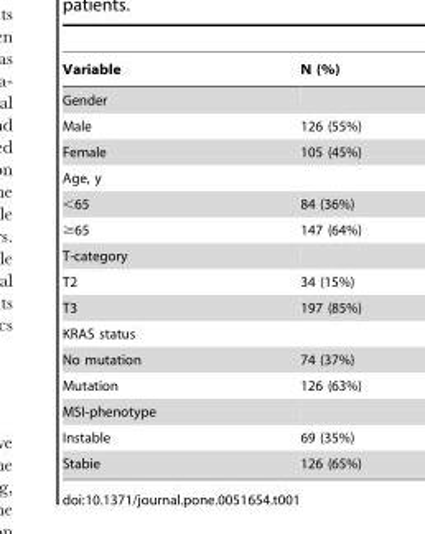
<table><thead><tr><td>Variable</td><td>N (%)</td></tr></thead><tbody><tr><td colspan="2">Gender</td></tr><tr><td>Male</td><td>126 (55%)</td></tr><tr><td>Female</td><td>105 (45%)</td></tr><tr><td colspan="2">Age, y</td></tr><tr><td>&lt;65</td><td>84 (36%)</td></tr><tr><td>≥65</td><td>147 (64%)</td></tr><tr><td colspan="2">T-category</td></tr><tr><td>T2</td><td>34 (15%)</td></tr><tr><td>T3</td><td>197 (85%)</td></tr><tr><td colspan="2">KRAS status</td></tr><tr><td>No mutation</td><td>74 (37%)</td></tr><tr><td>Mutation</td><td>126 (63%)</td></tr><tr><td colspan="2">MSI-phenotype</td></tr><tr><td>Instable</td><td>69 (35%)</td></tr><tr><td>Stabie</td><td>126 (65%)</td></tr></tbody></table>